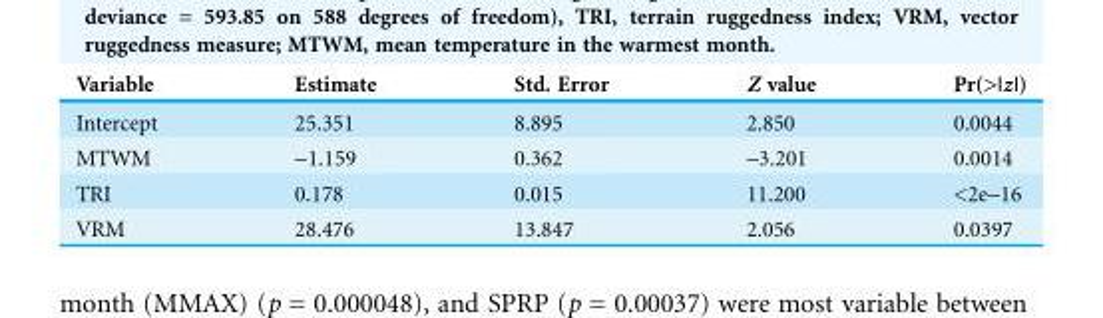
<table><thead><tr><td>Variable</td><td>Estimate</td><td>Std. Error</td><td>Z value</td><td>Pr(&gt;|z|)</td></tr></thead><tbody><tr><td>Intercept</td><td>25.351</td><td>8.895</td><td>2.850</td><td>0.0044</td></tr><tr><td>MTWM</td><td>-1.159</td><td>0.362</td><td>-3.201</td><td>0.0014</td></tr><tr><td>TRI</td><td>0.178</td><td>0.015</td><td>11.200</td><td>&lt;2e-16</td></tr><tr><td>VRM</td><td>28.476</td><td>13.847</td><td>2.056</td><td>0.0397</td></tr></tbody></table>